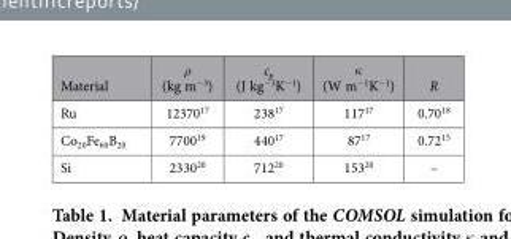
<table><thead><tr><td>Material</td><td>ρ (kg m<sup>−3</sup>)</td><td>c<sub>p</sub> (J kg<sup>−1</sup>K<sup>−1</sup>)</td><td>κ (W m−1K−1)</td><td>R</td></tr></thead><tbody><tr><td>Ru</td><td>12370<sup>17</sup></td><td>238<sup>17</sup></td><td>117<sup>17</sup></td><td>0.70<sup>18</sup></td></tr><tr><td>Co<sub>20</sub>Fe<sub>60</sub>B<sub>20</sub></td><td>7700<sup>19</sup></td><td>440<sup>17</sup></td><td>87<sup>17</sup></td><td>0.72<sup>15</sup></td></tr><tr><td>Si</td><td>2330<sup>20</sup></td><td>712<sup>20</sup></td><td>153<sup>20</sup></td><td>–</td></tr></tbody></table>